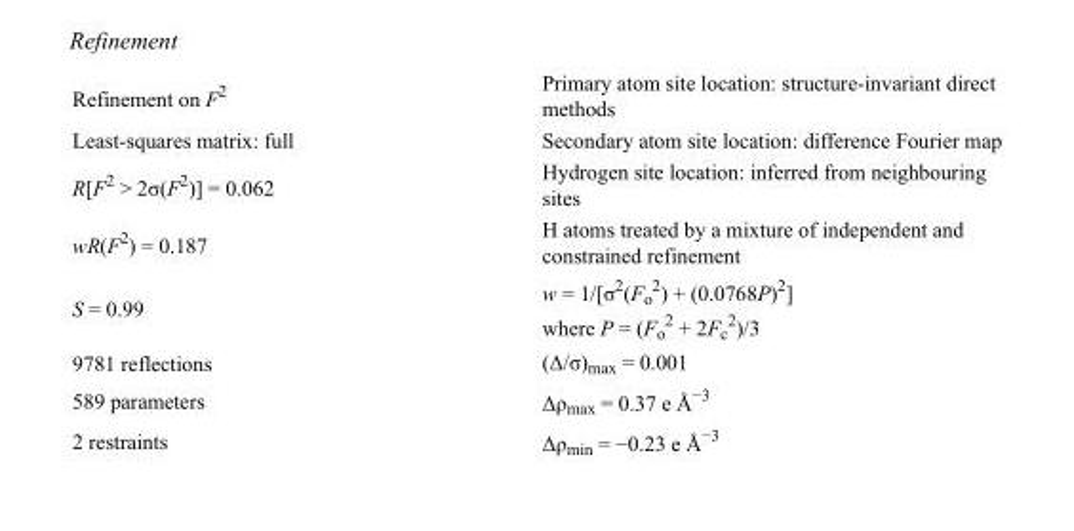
<table><tbody><tr><td>Refinement on F<sup>2</sup></td><td>Primary atom site location: structure-invariant direct methods</td></tr><tr><td>Least-squares matrix: full</td><td>Secondary atom site location: difference Fourier map</td></tr><tr><td>R[F<sup>2</sup> &gt; 2σ(F<sup>2</sup>)] = 0.062</td><td>Hydrogen site location: inferred from neighbouring sites</td></tr><tr><td>wR(F<sup>2</sup>) = 0.187</td><td>H atoms treated by a mixture of independent and constrained refinement</td></tr><tr><td>S = 0.99</td><td>w = 1/[σ<sup>2</sup>(F<sub>o</sub> <sup>2</sup>) + (0.0768P)<sup>2</sup>] where P = (F<sub>o</sub> <sup>2</sup> + 2F<sub>c</sub> <sup>2</sup>)/3</td></tr><tr><td>9781 reflections</td><td>(Δ/σ)<sub>max</sub> = 0.001</td></tr><tr><td>589 parameters</td><td>Δρ<sub>max</sub> = 0.37 e Å<sup>−3</sup></td></tr><tr><td>2 restraints</td><td>Δρ<sub>min</sub> = −0.23 e Å<sup>−3</sup></td></tr></tbody></table>